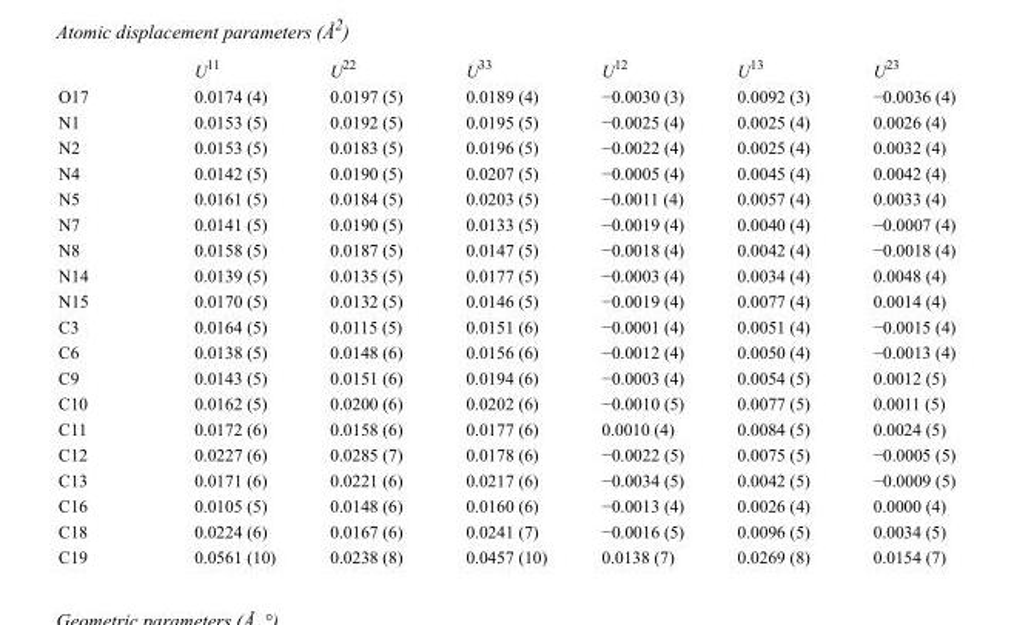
<table><thead><tr><td></td><td>U<sup>11</sup></td><td>U<sup>22</sup></td><td>U<sup>33</sup></td><td>U<sup>12</sup></td><td>U<sup>13</sup></td><td>U<sup>23</sup></td></tr></thead><tbody><tr><td>O17</td><td>0.0174 (4)</td><td>0.0197 (5)</td><td>0.0189 (4)</td><td>−0.0030 (3)</td><td>0.0092 (3)</td><td>−0.0036 (4)</td></tr><tr><td>N1</td><td>0.0153 (5)</td><td>0.0192 (5)</td><td>0.0195 (5)</td><td>−0.0025 (4)</td><td>0.0025 (4)</td><td>0.0026 (4)</td></tr><tr><td>N2</td><td>0.0153 (5)</td><td>0.0183 (5)</td><td>0.0196 (5)</td><td>−0.0022 (4)</td><td>0.0025 (4)</td><td>0.0032 (4)</td></tr><tr><td>N4</td><td>0.0142 (5)</td><td>0.0190 (5)</td><td>0.0207 (5)</td><td>−0.0005 (4)</td><td>0.0045 (4)</td><td>0.0042 (4)</td></tr><tr><td>N5</td><td>0.0161 (5)</td><td>0.0184 (5)</td><td>0.0203 (5)</td><td>−0.0011 (4)</td><td>0.0057 (4)</td><td>0.0033 (4)</td></tr><tr><td>N7</td><td>0.0141 (5)</td><td>0.0190 (5)</td><td>0.0133 (5)</td><td>−0.0019 (4)</td><td>0.0040 (4)</td><td>−0.0007 (4)</td></tr><tr><td>N8</td><td>0.0158 (5)</td><td>0.0187 (5)</td><td>0.0147 (5)</td><td>−0.0018 (4)</td><td>0.0042 (4)</td><td>−0.0018 (4)</td></tr><tr><td>N14</td><td>0.0139 (5)</td><td>0.0135 (5)</td><td>0.0177 (5)</td><td>−0.0003 (4)</td><td>0.0034 (4)</td><td>0.0048 (4)</td></tr><tr><td>N15</td><td>0.0170 (5)</td><td>0.0132 (5)</td><td>0.0146 (5)</td><td>−0.0019 (4)</td><td>0.0077 (4)</td><td>0.0014 (4)</td></tr><tr><td>C3</td><td>0.0164 (5)</td><td>0.0115 (5)</td><td>0.0151 (6)</td><td>−0.0001 (4)</td><td>0.0051 (4)</td><td>−0.0015 (4)</td></tr><tr><td>C6</td><td>0.0138 (5)</td><td>0.0148 (6)</td><td>0.0156 (6)</td><td>−0.0012 (4)</td><td>0.0050 (4)</td><td>−0.0013 (4)</td></tr><tr><td>C9</td><td>0.0143 (5)</td><td>0.0151 (6)</td><td>0.0194 (6)</td><td>−0.0003 (4)</td><td>0.0054 (5)</td><td>0.0012 (5)</td></tr><tr><td>C10</td><td>0.0162 (5)</td><td>0.0200 (6)</td><td>0.0202 (6)</td><td>−0.0010 (5)</td><td>0.0077 (5)</td><td>0.0011 (5)</td></tr><tr><td>C11</td><td>0.0172 (6)</td><td>0.0158 (6)</td><td>0.0177 (6)</td><td>0.0010 (4)</td><td>0.0084 (5)</td><td>0.0024 (5)</td></tr><tr><td>C12</td><td>0.0227 (6)</td><td>0.0285 (7)</td><td>0.0178 (6)</td><td>−0.0022 (5)</td><td>0.0075 (5)</td><td>−0.0005 (5)</td></tr><tr><td>C13</td><td>0.0171 (6)</td><td>0.0221 (6)</td><td>0.0217 (6)</td><td>−0.0034 (5)</td><td>0.0042 (5)</td><td>−0.0009 (5)</td></tr><tr><td>C16</td><td>0.0105 (5)</td><td>0.0148 (6)</td><td>0.0160 (6)</td><td>−0.0013 (4)</td><td>0.0026 (4)</td><td>0.0000 (4)</td></tr><tr><td>C18</td><td>0.0224 (6)</td><td>0.0167 (6)</td><td>0.0241 (7)</td><td>−0.0016 (5)</td><td>0.0096 (5)</td><td>0.0034 (5)</td></tr><tr><td>C19</td><td>0.0561 (10)</td><td>0.0238 (8)</td><td>0.0457 (10)</td><td>0.0138 (7)</td><td>0.0269 (8)</td><td>0.0154 (7)</td></tr></tbody></table>